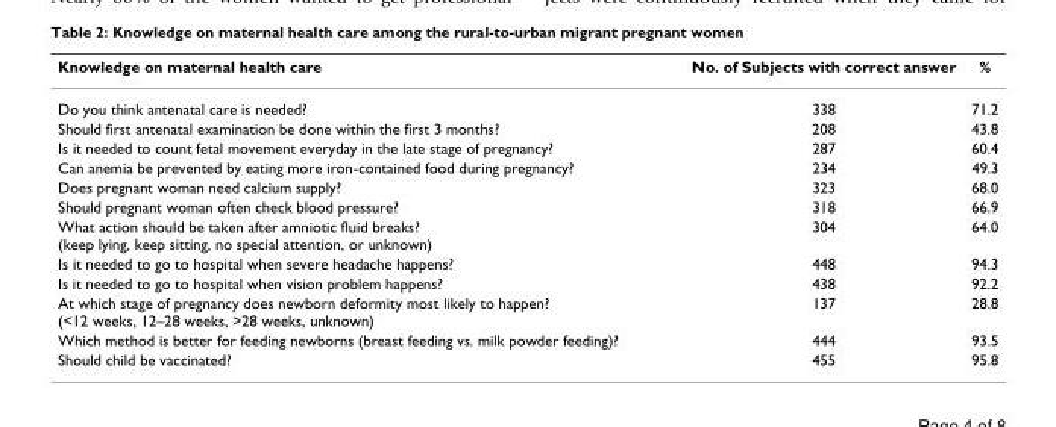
<table><thead><tr><td>Knowledge on maternal health care</td><td>No. of Subjects with correct answer</td><td>%</td></tr></thead><tbody><tr><td>Do you think antenatal care is needed?</td><td>338</td><td>71.2</td></tr><tr><td>Should first antenatal examination be done within the first 3 months?</td><td>208</td><td>43.8</td></tr><tr><td>Is it needed to count fetal movement everyday in the late stage of pregnancy?</td><td>287</td><td>60.4</td></tr><tr><td>Can anemia be prevented by eating more iron-contained food during pregnancy?</td><td>234</td><td>49.3</td></tr><tr><td>Does pregnant woman need calcium supply?</td><td>323</td><td>68.0</td></tr><tr><td>Should pregnant woman often check blood pressure?</td><td>318</td><td>66.9</td></tr><tr><td>What action should be taken after amniotic fluid breaks? (keep lying, keep sitting, no special attention, or unknown)</td><td>304</td><td>64.0</td></tr><tr><td>Is it needed to go to hospital when severe headache happens?</td><td>448</td><td>94.3</td></tr><tr><td>Is it needed to go to hospital when vision problem happens?</td><td>438</td><td>92.2</td></tr><tr><td>At which stage of pregnancy does newborn deformity most likely to happen? (&lt;12 weeks, 12–28 weeks, &gt;28 weeks, unknown)</td><td>137</td><td>28.8</td></tr><tr><td>Which method is better for feeding newborns (breast feeding vs. milk powder feeding)?</td><td>444</td><td>93.5</td></tr><tr><td>Should child be vaccinated?</td><td>455</td><td>95.8</td></tr></tbody></table>